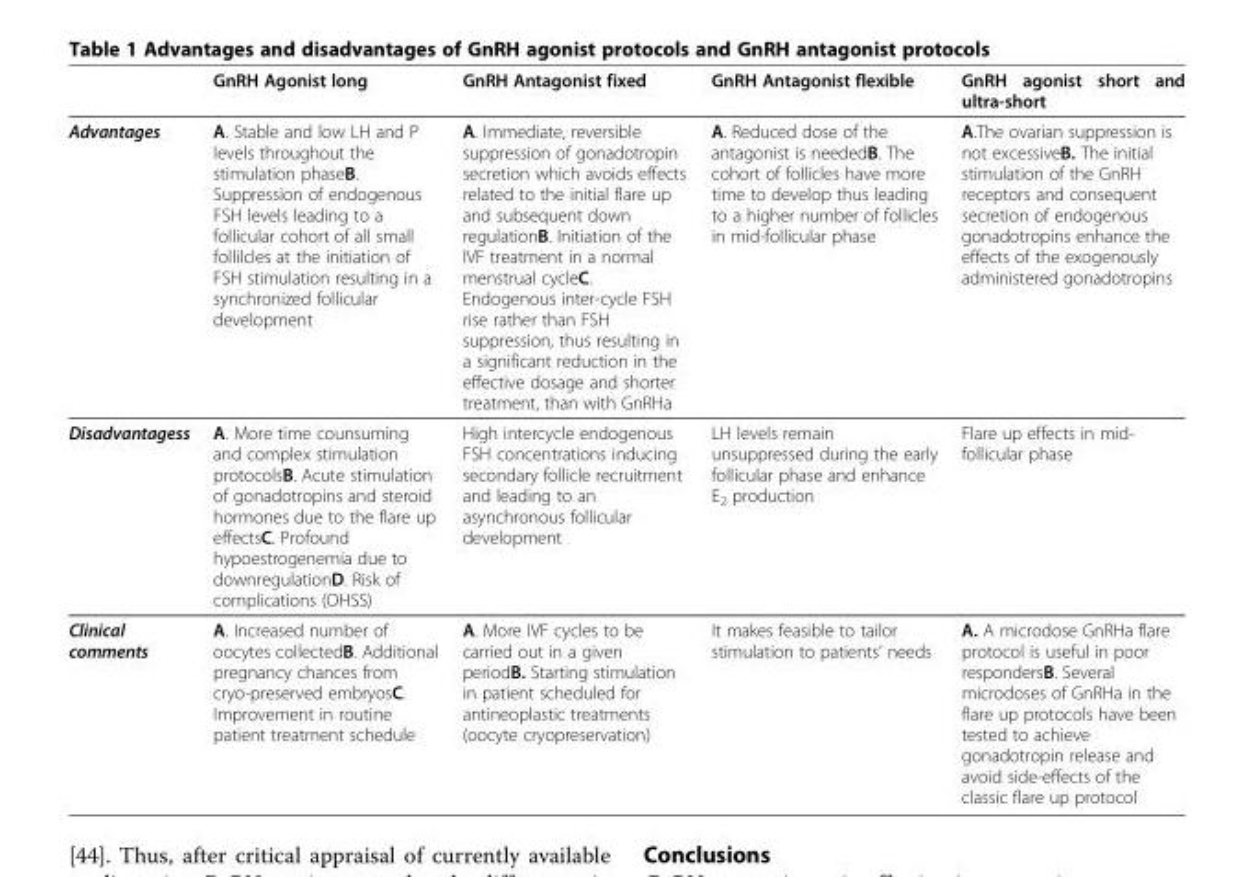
<table><thead><tr><td></td><td>GnRH Agonist long</td><td>GnRH Antagonist fixed</td><td>GnRH Antagonist flexible</td><td>GnRH agonist short and ultra-short</td></tr></thead><tbody><tr><td>Advantages</td><td>A. Stable and low LH and P levels throughout the stimulation phaseB. Suppression of endogenous FSH levels leading to a follicular cohort of all small follilcles at the initiation of FSH stimulation resulting in a synchronized follicular development</td><td>A. Immediate, reversible suppression of gonadotropin secretion which avoids effects related to the initial flare up and subsequent down regulationB. Initiation of the IVF treatment in a normal menstrual cycleC. Endogenous inter-cycle FSH rise rather than FSH suppression, thus resulting in a significant reduction in the effective dosage and shorter treatment, than with GnRHa</td><td>A. Reduced dose of the antagonist is neededB. The cohort of follicles have more time to develop thus leading to a higher number of follicles in mid-follicular phase</td><td>A.The ovarian suppression is not excessiveB. The initial stimulation of the GnRH receptors and consequent secretion of endogenous gonadotropins enhance the effects of the exogenously administered gonadotropins</td></tr><tr><td>Disadvantagess</td><td>A. More time counsuming and complex stimulation protocolsB. Acute stimulation of gonadotropins and steroid hormones due to the flare up effectsC. Profound hypoestrogenemia due to downregulationD. Risk of complications (OHSS)</td><td>High intercycle endogenous FSH concentrations inducing secondary follicle recruitment and leading to an asynchronous follicular development</td><td>LH levels remain unsuppressed during the early follicular phase and enhance E<sub>2</sub> production</td><td>Flare up effects in mid- follicular phase</td></tr><tr><td>Clinical comments</td><td>A. Increased number of oocytes collectedB. Additional pregnancy chances from cryo-preserved embryosC. Improvement in routine patient treatment schedule</td><td>A. More IVF cycles to be carried out in a given periodB. Starting stimulation in patient scheduled for antineoplastic treatments (oocyte cryopreservation)</td><td>It makes feasible to tailor stimulation to patients’ needs</td><td>A. A microdose GnRHa flare protocol is useful in poor respondersB. Several microdoses of GnRHa in the flare up protocols have been tested to achieve gonadotropin release and avoid side-effects of the classic flare up protocol</td></tr></tbody></table>